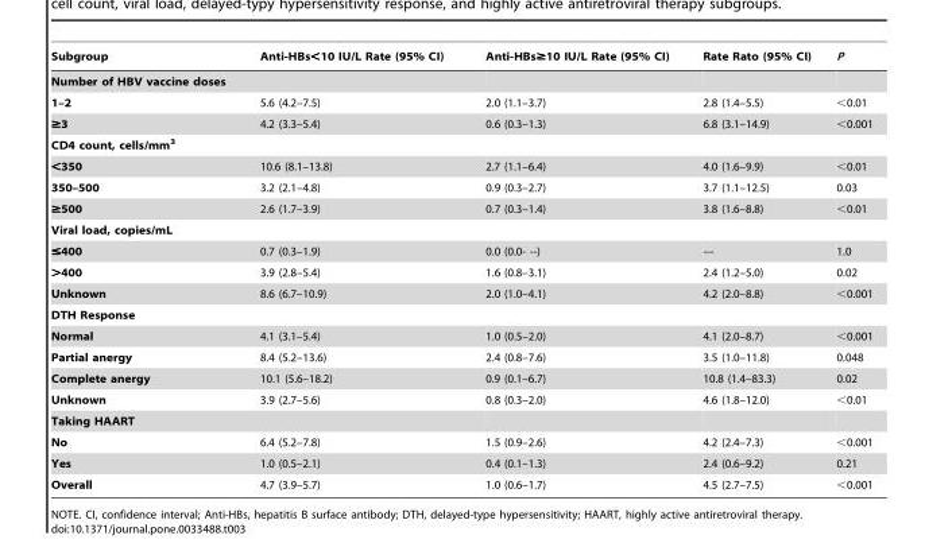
<table><thead><tr><td>Subgroup</td><td>Anti-HBs&lt;10 IU/L Rate (95% CI)</td><td>Anti-HBs≥10 IU/L Rate (95% CI)</td><td>Rate Rato (95% CI)</td><td>P</td></tr></thead><tbody><tr><td colspan="5">Number of HBV vaccine doses</td></tr><tr><td>1–2</td><td>5.6 (4.2–7.5)</td><td>2.0 (1.1–3.7)</td><td>2.8 (1.4–5.5)</td><td>&lt;0.01</td></tr><tr><td>≥3</td><td>4.2 (3.3–5.4)</td><td>0.6 (0.3–1.3)</td><td>6.8 (3.1–14.9)</td><td>&lt;0.001</td></tr><tr><td colspan="5">CD4 count, cells/mm<sup>3</sup></td></tr><tr><td>&lt;350</td><td>10.6 (8.1–13.8)</td><td>2.7 (1.1–6.4)</td><td>4.0 (1.6–9.9)</td><td>&lt;0.01</td></tr><tr><td>350–500</td><td>3.2 (2.1–4.8)</td><td>0.9 (0.3–2.7)</td><td>3.7 (1.1–12.5)</td><td>0.03</td></tr><tr><td>≥500</td><td>2.6 (1.7–3.9)</td><td>0.7 (0.3–1.4)</td><td>3.8 (1.6–8.8)</td><td>&lt;0.01</td></tr><tr><td colspan="5">Viral load, copies/mL</td></tr><tr><td>≤400</td><td>0.7 (0.3–1.9)</td><td>0.0 (0.0- --)</td><td>---</td><td>1.0</td></tr><tr><td>&gt;400</td><td>3.9 (2.8–5.4)</td><td>1.6 (0.8–3.1)</td><td>2.4 (1.2–5.0)</td><td>0.02</td></tr><tr><td>Unknown</td><td>8.6 (6.7–10.9)</td><td>2.0 (1.0–4.1)</td><td>4.2 (2.0–8.8)</td><td>&lt;0.001</td></tr><tr><td colspan="5">DTH Response</td></tr><tr><td>Normal</td><td>4.1 (3.1–5.4)</td><td>1.0 (0.5–2.0)</td><td>4.1 (2.0–8.7)</td><td>&lt;0.001</td></tr><tr><td>Partial anergy</td><td>8.4 (5.2–13.6)</td><td>2.4 (0.8–7.6)</td><td>3.5 (1.0–11.8)</td><td>0.048</td></tr><tr><td>Complete anergy</td><td>10.1 (5.6–18.2)</td><td>0.9 (0.1–6.7)</td><td>10.8 (1.4–83.3)</td><td>0.02</td></tr><tr><td>Unknown</td><td>3.9 (2.7–5.6)</td><td>0.8 (0.3–2.0)</td><td>4.6 (1.8–12.0)</td><td>&lt;0.01</td></tr><tr><td colspan="5">Taking HAART</td></tr><tr><td>No</td><td>6.4 (5.2–7.8)</td><td>1.5 (0.9–2.6)</td><td>4.2 (2.4–7.3)</td><td>&lt;0.001</td></tr><tr><td>Yes</td><td>1.0 (0.5–2.1)</td><td>0.4 (0.1–1.3)</td><td>2.4 (0.6–9.2)</td><td>0.21</td></tr><tr><td>Overall</td><td>4.7 (3.9–5.7)</td><td>1.0 (0.6–1.7)</td><td>4.5 (2.7–7.5)</td><td>&lt;0.001</td></tr></tbody></table>